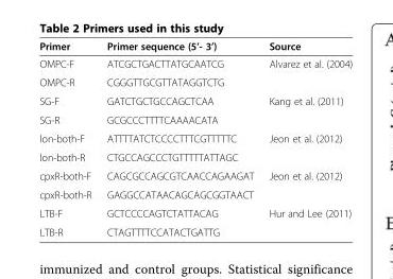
<table><thead><tr><td>Primer</td><td>Primer sequence (5’- 3’)</td><td>Source</td></tr></thead><tbody><tr><td>OMPC-F</td><td>ATCGCTGACTTATGCAATCG</td><td>Alvarez et al. (2004)</td></tr><tr><td>OMPC-R</td><td>CGGGTTGCGTTATAGGTCTG</td><td></td></tr><tr><td>SG-F</td><td>GATCTGCTGCCAGCTCAA</td><td>Kang et al. (2011)</td></tr><tr><td>SG-R</td><td>GCGCCCTTTTCAAAACATA</td><td></td></tr><tr><td>lon-both-F</td><td>ATTTTATCTCCCCTTTCGTTTTTC</td><td>Jeon et al. (2012)</td></tr><tr><td>lon-both-R</td><td>CTGCCAGCCCTGTTTTTATTAGC</td><td></td></tr><tr><td>cpxR-both-F</td><td>CAGCGCCAGCGTCAACCAGAAGAT</td><td>Jeon et al. (2012)</td></tr><tr><td>cpxR-both-R</td><td>GAGGCCATAACAGCAGCGGTAACT</td><td></td></tr><tr><td>LTB-F</td><td>GCTCCCCAGTCTATTACAG</td><td>Hur and Lee (2011)</td></tr><tr><td>LTB-R</td><td>CTAGTTTTCCATACTGATTG</td><td></td></tr></tbody></table>